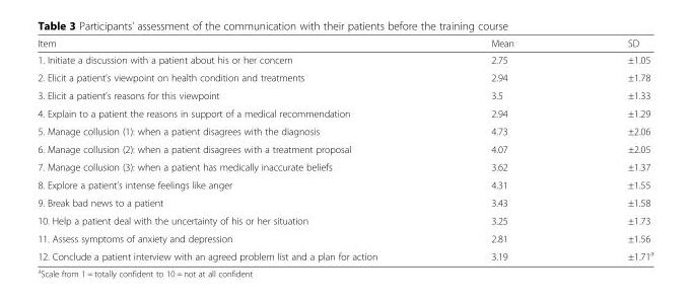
<table><thead><tr><td>Item</td><td>Mean</td><td>SD</td></tr></thead><tbody><tr><td>1. Initiate a discussion with a patient about his or her concern</td><td>2.75</td><td>±1.05</td></tr><tr><td>2. Elicit a patient’s viewpoint on health condition and treatments</td><td>2.94</td><td>±1.78</td></tr><tr><td>3. Elicit a patient’s reasons for this viewpoint</td><td>3.5</td><td>±1.33</td></tr><tr><td>4. Explain to a patient the reasons in support of a medical recommendation</td><td>2.94</td><td>±1.29</td></tr><tr><td>5. Manage collusion (1): when a patient disagrees with the diagnosis</td><td>4.73</td><td>±2.06</td></tr><tr><td>6. Manage collusion (2): when a patient disagrees with a treatment proposal</td><td>4.07</td><td>±2.05</td></tr><tr><td>7. Manage collusion (3): when a patient has medically inaccurate beliefs</td><td>3.62</td><td>±1.37</td></tr><tr><td>8. Explore a patient’s intense feelings like anger</td><td>4.31</td><td>±1.55</td></tr><tr><td>9. Break bad news to a patient</td><td>3.43</td><td>±1.58</td></tr><tr><td>10. Help a patient deal with the uncertainty of his or her situation</td><td>3.25</td><td>±1.73</td></tr><tr><td>11. Assess symptoms of anxiety and depression</td><td>2.81</td><td>±1.56</td></tr><tr><td>12. Conclude a patient interview with an agreed problem list and a plan for action</td><td>3.19</td><td>±1.71<sup>a</sup></td></tr></tbody></table>